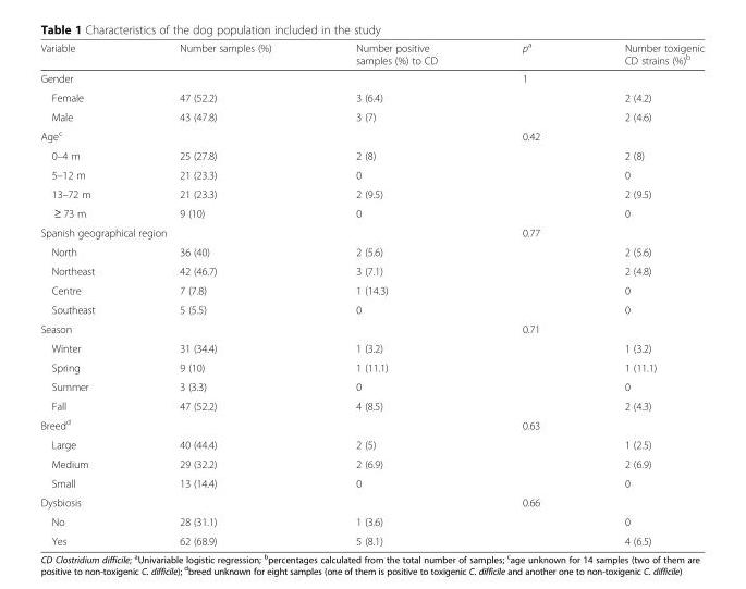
<table><thead><tr><td>Variable</td><td>Number samples (%)</td><td>Number positive samples (%) to CD</td><td>p<sup>a</sup></td><td>Number toxigenic CD strains (%)<sup>b</sup></td></tr></thead><tbody><tr><td colspan="3">Gender</td><td>1</td><td></td></tr><tr><td>Female</td><td>47 (52.2)</td><td>3 (6.4)</td><td rowspan="2"></td><td>2 (4.2)</td></tr><tr><td>Male</td><td>43 (47.8)</td><td>3 (7)</td><td>2 (4.6)</td></tr><tr><td colspan="3">Age<sup>c</sup></td><td>0.42</td><td></td></tr><tr><td>0–4 m</td><td>25 (27.8)</td><td>2 (8)</td><td rowspan="4"></td><td>2 (8)</td></tr><tr><td>5–12 m</td><td>21 (23.3)</td><td>0</td><td>0</td></tr><tr><td>13–72 m</td><td>21 (23.3)</td><td>2 (9.5)</td><td>2 (9.5)</td></tr><tr><td>≥ 73 m</td><td>9 (10)</td><td>0</td><td>0</td></tr><tr><td colspan="3">Spanish geographical region</td><td>0.77</td><td></td></tr><tr><td>North</td><td>36 (40)</td><td>2 (5.6)</td><td rowspan="4"></td><td>2 (5.6)</td></tr><tr><td>Northeast</td><td>42 (46.7)</td><td>3 (7.1)</td><td>2 (4.8)</td></tr><tr><td>Centre</td><td>7 (7.8)</td><td>1 (14.3)</td><td>0</td></tr><tr><td>Southeast</td><td>5 (5.5)</td><td>0</td><td>0</td></tr><tr><td colspan="3">Season</td><td>0.71</td><td></td></tr><tr><td>Winter</td><td>31 (34.4)</td><td>1 (3.2)</td><td rowspan="4"></td><td>1 (3.2)</td></tr><tr><td>Spring</td><td>9 (10)</td><td>1 (11.1)</td><td>1 (11.1)</td></tr><tr><td>Summer</td><td>3 (3.3)</td><td>0</td><td>0</td></tr><tr><td>Fall</td><td>47 (52.2)</td><td>4 (8.5)</td><td>2 (4.3)</td></tr><tr><td colspan="3">Breed<sup>d</sup></td><td>0.63</td><td></td></tr><tr><td>Large</td><td>40 (44.4)</td><td>2 (5)</td><td rowspan="3"></td><td>1 (2.5)</td></tr><tr><td>Medium</td><td>29 (32.2)</td><td>2 (6.9)</td><td>2 (6.9)</td></tr><tr><td>Small</td><td>13 (14.4)</td><td>0</td><td>0</td></tr><tr><td colspan="3">Dysbiosis</td><td>0.66</td><td></td></tr><tr><td>No</td><td>28 (31.1)</td><td>1 (3.6)</td><td rowspan="2"></td><td>0</td></tr><tr><td>Yes</td><td>62 (68.9)</td><td>5 (8.1)</td><td>4 (6.5)</td></tr></tbody></table>